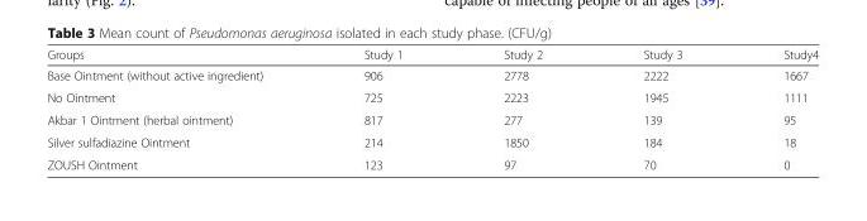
<table><thead><tr><td>Groups</td><td>Study 1</td><td>Study 2</td><td>Study 3</td><td>Study4</td></tr></thead><tbody><tr><td>Base Ointment (without active ingredient)</td><td>906</td><td>2778</td><td>2222</td><td>1667</td></tr><tr><td>No Ointment</td><td>725</td><td>2223</td><td>1945</td><td>1111</td></tr><tr><td>Akbar 1 Ointment (herbal ointment)</td><td>817</td><td>277</td><td>139</td><td>95</td></tr><tr><td>Silver sulfadiazine Ointment</td><td>214</td><td>1850</td><td>184</td><td>18</td></tr><tr><td>ZOUSH Ointment</td><td>123</td><td>97</td><td>70</td><td>0</td></tr></tbody></table>